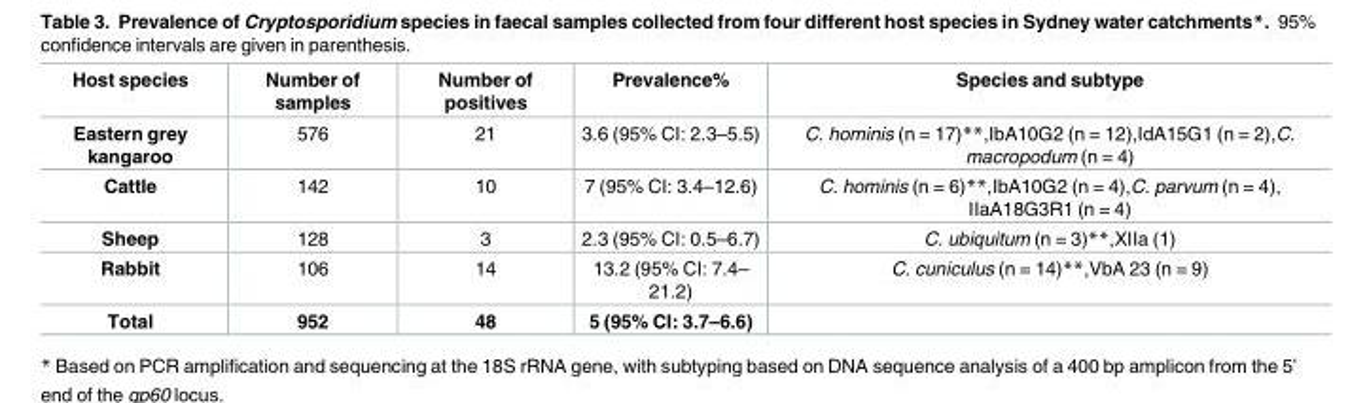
<table><thead><tr><td>Host species</td><td>Number of samples</td><td>Number of positives</td><td>Prevalence%</td><td>Species and subtype</td></tr></thead><tbody><tr><td>Eastern grey kangaroo</td><td>576</td><td>21</td><td>3.6 (95% CI: 2.3–5.5)</td><td>C. hominis (n = 17)**,IbA10G2 (n = 12),IdA15G1 (n = 2),C. macropodum (n = 4)</td></tr><tr><td>Cattle</td><td>142</td><td>10</td><td>7 (95% CI: 3.4–12.6)</td><td>C. hominis (n = 6)**,IbA10G2 (n = 4),C. parvum (n = 4), IIaA18G3R1 (n = 4)</td></tr><tr><td>Sheep</td><td>128</td><td>3</td><td>2.3 (95% CI: 0.5–6.7)</td><td>C. ubiquitum (n = 3)**,XIIa (1)</td></tr><tr><td>Rabbit</td><td>106</td><td>14</td><td>13.2 (95% CI: 7.4– 21.2)</td><td>C. cuniculus (n = 14)**,VbA 23 (n = 9)</td></tr><tr><td>Total</td><td>952</td><td>48</td><td>5 (95% CI: 3.7–6.6)</td><td></td></tr></tbody></table>